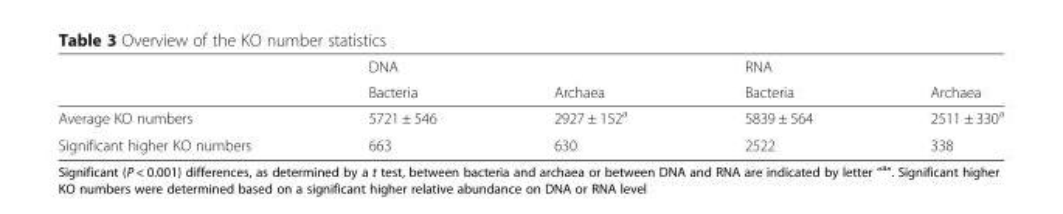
<table><thead><tr><td rowspan="2"></td><td rowspan="2">DNA Bacteria</td><td rowspan="2">Archaea</td><td rowspan="2">RNA Bacteria</td><td rowspan="2">Archaea</td></tr><tr></tr></thead><tbody><tr><td>Average KO numbers</td><td>5721 ± 546</td><td>2927 ± 152<sup>a</sup></td><td>5839 ± 564</td><td>2511 ± 330<sup>a</sup></td></tr><tr><td>Significant higher KO numbers</td><td>663</td><td>630</td><td>2522</td><td>338</td></tr></tbody></table>